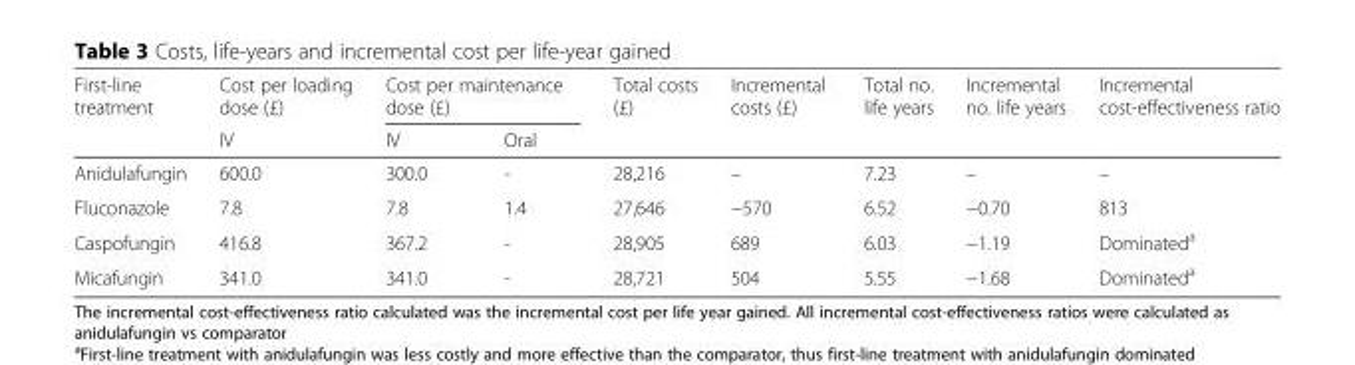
<table><thead><tr><td rowspan="2">First-line treatment</td><td rowspan="2">Cost per loading dose (£) IV</td><td colspan="2">Cost per maintenance dose (£)</td><td rowspan="2">Total costs (£)</td><td rowspan="2">Incremental costs (£)</td><td rowspan="2">Total no. life years</td><td rowspan="2">Incremental no. life years</td><td rowspan="2">Incremental cost-effectiveness ratio</td></tr><tr><td>IV</td><td>Oral</td></tr></thead><tbody><tr><td>Anidulafungin</td><td>600.0</td><td>300.0</td><td>-</td><td>28,216</td><td>–</td><td>7.23</td><td>–</td><td>–</td></tr><tr><td>Fluconazole</td><td>7.8</td><td>7.8</td><td>1.4</td><td>27,646</td><td>−570</td><td>6.52</td><td>−0.70</td><td>813</td></tr><tr><td>Caspofungin</td><td>416.8</td><td>367.2</td><td>-</td><td>28,905</td><td>689</td><td>6.03</td><td>−1.19</td><td>Dominated<sup>a</sup></td></tr><tr><td>Micafungin</td><td>341.0</td><td>341.0</td><td>-</td><td>28,721</td><td>504</td><td>5.55</td><td>−1.68</td><td>Dominated<sup>a</sup></td></tr></tbody></table>